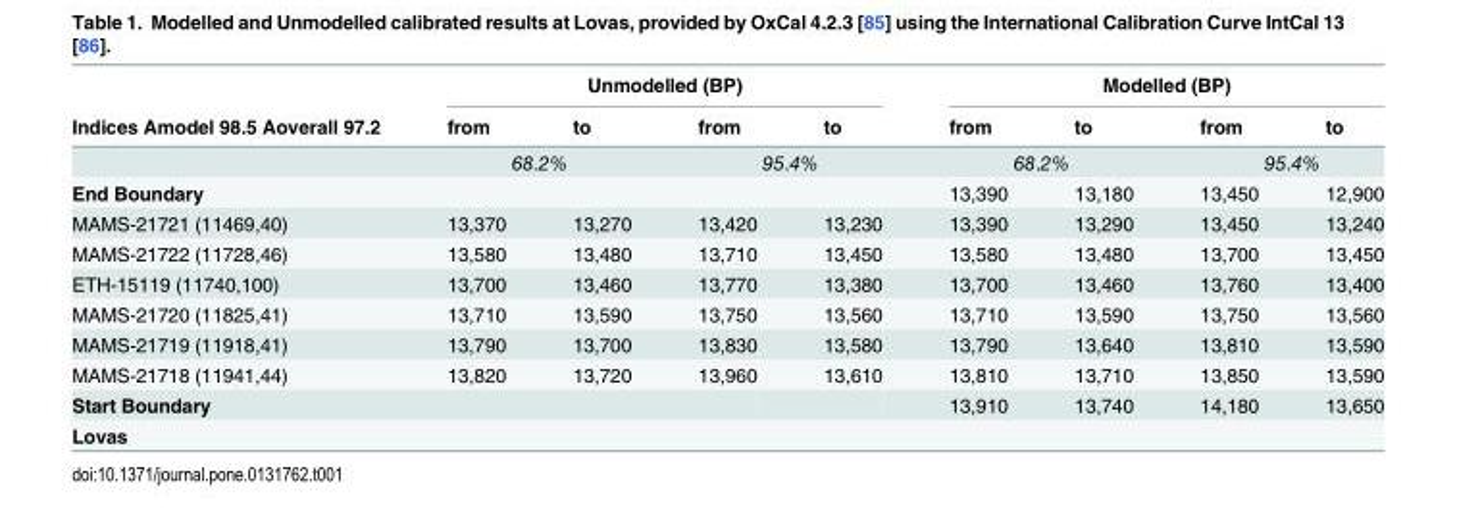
<table><thead><tr><td rowspan="2">Indices Amodel 98.5 Aoverall 97.2</td><td colspan="4">Unmodelled (BP)</td><td colspan="4">Modelled (BP)</td></tr><tr><td>from</td><td>to</td><td>from</td><td>to</td><td>from</td><td>to</td><td>from</td><td>to</td></tr></thead><tbody><tr><td></td><td colspan="2">68.2%</td><td colspan="2">95.4%</td><td colspan="2">68.2%</td><td colspan="2">95.4%</td></tr><tr><td>End Boundary</td><td></td><td></td><td></td><td></td><td>13,390</td><td>13,180</td><td>13,450</td><td>12,900</td></tr><tr><td>MAMS-21721 (11469,40)</td><td>13,370</td><td>13,270</td><td>13,420</td><td>13,230</td><td>13,390</td><td>13,290</td><td>13,450</td><td>13,240</td></tr><tr><td>MAMS-21722 (11728,46)</td><td>13,580</td><td>13,480</td><td>13,710</td><td>13,450</td><td>13,580</td><td>13,480</td><td>13,700</td><td>13,450</td></tr><tr><td>ETH-15119 (11740,100)</td><td>13,700</td><td>13,460</td><td>13,770</td><td>13,380</td><td>13,700</td><td>13,460</td><td>13,760</td><td>13,400</td></tr><tr><td>MAMS-21720 (11825,41)</td><td>13,710</td><td>13,590</td><td>13,750</td><td>13,560</td><td>13,710</td><td>13,590</td><td>13,750</td><td>13,560</td></tr><tr><td>MAMS-21719 (11918,41)</td><td>13,790</td><td>13,700</td><td>13,830</td><td>13,580</td><td>13,790</td><td>13,640</td><td>13,810</td><td>13,590</td></tr><tr><td>MAMS-21718 (11941,44)</td><td>13,820</td><td>13,720</td><td>13,960</td><td>13,610</td><td>13,810</td><td>13,710</td><td>13,850</td><td>13,590</td></tr><tr><td>Start Boundary</td><td></td><td></td><td></td><td></td><td>13,910</td><td>13,740</td><td>14,180</td><td>13,650</td></tr><tr><td>Lovas</td><td></td><td></td><td></td><td></td><td></td><td></td><td></td><td></td></tr></tbody></table>